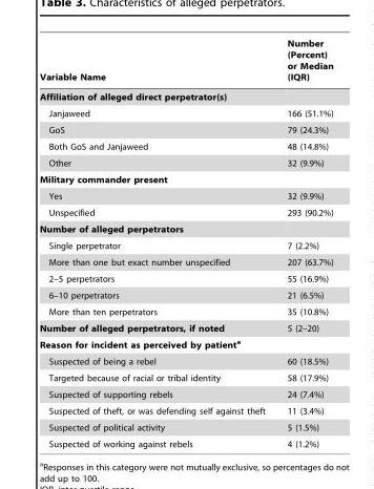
<table><thead><tr><td>Variable Name</td><td>Number (Percent) or Median (IQR)</td></tr></thead><tbody><tr><td colspan="2">Affiliation of alleged direct perpetrator(s)</td></tr><tr><td>Janjaweed</td><td>166 (51.1%)</td></tr><tr><td>GoS</td><td>79 (24.3%)</td></tr><tr><td>Both GoS and Janjaweed</td><td>48 (14.8%)</td></tr><tr><td>Other</td><td>32 (9.9%)</td></tr><tr><td colspan="2">Military commander present</td></tr><tr><td>Yes</td><td>32 (9.9%)</td></tr><tr><td>Unspecified</td><td>293 (90.2%)</td></tr><tr><td colspan="2">Number of alleged perpetrators</td></tr><tr><td>Single perpetrator</td><td>7 (2.2%)</td></tr><tr><td>More than one but exact number unspecified</td><td>207 (63.7%)</td></tr><tr><td>2–5 perpetrators</td><td>55 (16.9%)</td></tr><tr><td>6–10 perpetrators</td><td>21 (6.5%)</td></tr><tr><td>More than ten perpetrators</td><td>35 (10.8%)</td></tr><tr><td>Number of alleged perpetrators, if noted</td><td>5 (2–20)</td></tr><tr><td colspan="2">Reason for incident as perceived by patienta</td></tr><tr><td>Suspected of being a rebel</td><td>60 (18.5%)</td></tr><tr><td>Targeted because of racial or tribal identity</td><td>58 (17.9%)</td></tr><tr><td>Suspected of supporting rebels</td><td>24 (7.4%)</td></tr><tr><td>Suspected of theft, or was defending self against theft</td><td>11 (3.4%)</td></tr><tr><td>Suspected of political activity</td><td>5 (1.5%)</td></tr><tr><td>Suspected of working against rebels</td><td>4 (1.2%)</td></tr></tbody></table>